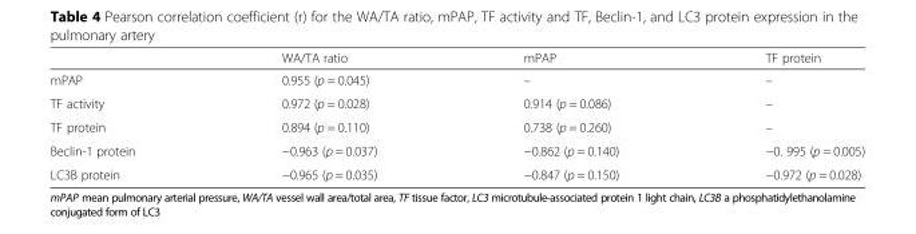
<table><thead><tr><td></td><td>WA/TA ratio</td><td>mPAP</td><td>TF protein</td></tr></thead><tbody><tr><td>mPAP</td><td>0.955 (p = 0.045)</td><td>–</td><td>–</td></tr><tr><td>TF activity</td><td>0.972 (p = 0.028)</td><td>0.914 (p = 0.086)</td><td>–</td></tr><tr><td>TF protein</td><td>0.894 (p = 0.110)</td><td>0.738 (p = 0.260)</td><td>–</td></tr><tr><td>Beclin-1 protein</td><td>−0.963 (p = 0.037)</td><td>−0.862 (p = 0.140)</td><td>−0. 995 (p = 0.005)</td></tr><tr><td>LC3B protein</td><td>−0.965 (p = 0.035)</td><td>−0.847 (p = 0.150)</td><td>−0.972 (p = 0.028)</td></tr></tbody></table>